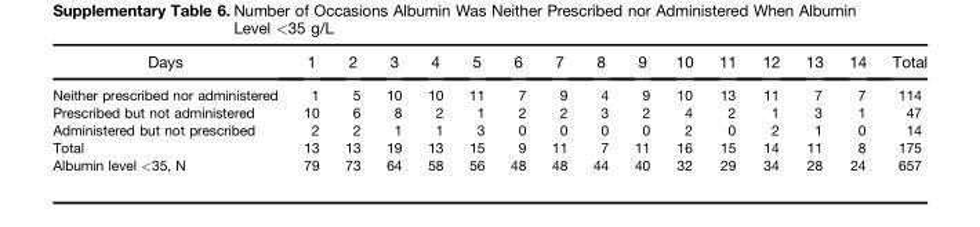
<table><thead><tr><td>Days</td><td>1</td><td>2</td><td>3</td><td>4</td><td>5</td><td>6</td><td>7</td><td>8</td><td>9</td><td>10</td><td>11</td><td>12</td><td>13</td><td>14</td><td>Total</td></tr></thead><tbody><tr><td>Neither prescribed nor administered</td><td>1</td><td>5</td><td>10</td><td>10</td><td>11</td><td>7</td><td>9</td><td>4</td><td>9</td><td>10</td><td>13</td><td>11</td><td>7</td><td>7</td><td>114</td></tr><tr><td>Prescribed but not administered</td><td>10</td><td>6</td><td>8</td><td>2</td><td>1</td><td>2</td><td>2</td><td>3</td><td>2</td><td>4</td><td>2</td><td>1</td><td>3</td><td>1</td><td>47</td></tr><tr><td>Administered but not prescribed</td><td>2</td><td>2</td><td>1</td><td>1</td><td>3</td><td>0</td><td>0</td><td>0</td><td>0</td><td>2</td><td>0</td><td>2</td><td>1</td><td>0</td><td>14</td></tr><tr><td>Total</td><td>13</td><td>13</td><td>19</td><td>13</td><td>15</td><td>9</td><td>11</td><td>7</td><td>11</td><td>16</td><td>15</td><td>14</td><td>11</td><td>8</td><td>175</td></tr><tr><td>Albumin level &lt;35, N</td><td>79</td><td>73</td><td>64</td><td>58</td><td>56</td><td>48</td><td>48</td><td>44</td><td>40</td><td>32</td><td>29</td><td>34</td><td>28</td><td>24</td><td>657</td></tr></tbody></table>